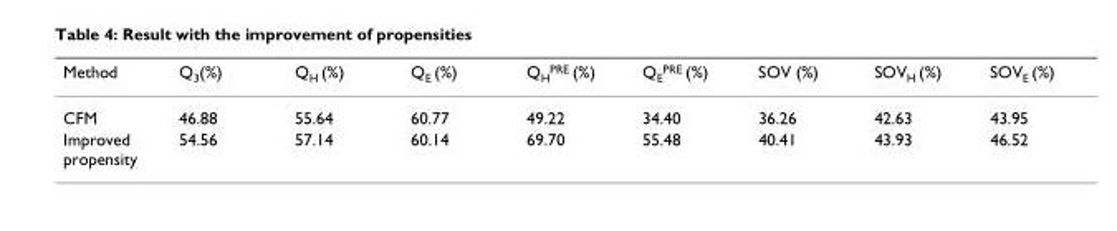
<table><thead><tr><td>Method</td><td>Q3(%)</td><td>QH (%)</td><td>QE (%)</td><td>QHPRE (%)</td><td>QEPRE (%)</td><td>SOV (%)</td><td>SOVH (%)</td><td>SOVE (%)</td></tr></thead><tbody><tr><td>CFM</td><td>46.88</td><td>55.64</td><td>60.77</td><td>49.22</td><td>34.40</td><td>36.26</td><td>42.63</td><td>43.95</td></tr><tr><td>Improved propensity</td><td>54.56</td><td>57.14</td><td>60.14</td><td>69.70</td><td>55.48</td><td>40.41</td><td>43.93</td><td>46.52</td></tr></tbody></table>